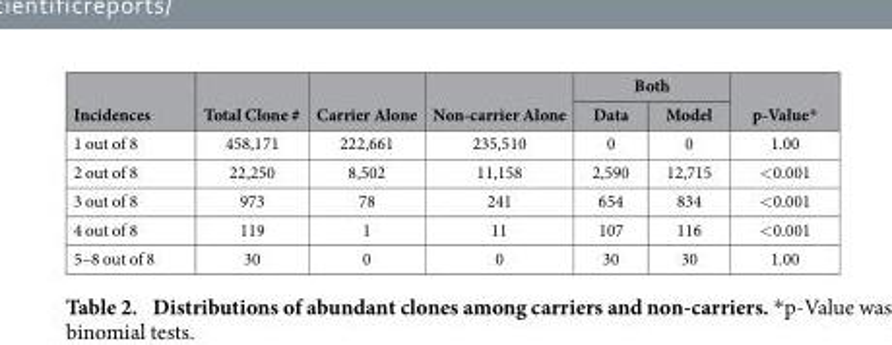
<table><thead><tr><td rowspan="2">Incidences</td><td rowspan="2">Total Clone #</td><td rowspan="2">Carrier Alone</td><td rowspan="2">Non-carrier Alone</td><td colspan="2">Both</td><td rowspan="2">p-Value*</td></tr><tr><td>Data</td><td>Model</td></tr></thead><tbody><tr><td>1 out of 8</td><td>458,171</td><td>222,661</td><td>235,510</td><td>0</td><td>0</td><td>1.00</td></tr><tr><td>2 out of 8</td><td>22,250</td><td>8,502</td><td>11,158</td><td>2,590</td><td>12,715</td><td>&lt; 0.001</td></tr><tr><td>3 out of 8</td><td>973</td><td>78</td><td>241</td><td>654</td><td>834</td><td>&lt; 0.001</td></tr><tr><td>4 out of 8</td><td>119</td><td>1</td><td>11</td><td>107</td><td>116</td><td>&lt; 0.001</td></tr><tr><td>5–8 out of 8</td><td>30</td><td>0</td><td>0</td><td>30</td><td>30</td><td>1.00</td></tr></tbody></table>